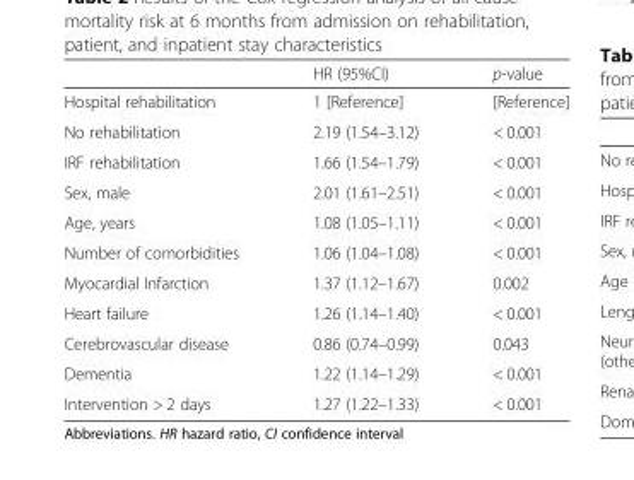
<table><thead><tr><td></td><td>HR (95%CI)</td><td>p-value</td></tr></thead><tbody><tr><td>Hospital rehabilitation</td><td>1 [Reference]</td><td>[Reference]</td></tr><tr><td>No rehabilitation</td><td>2.19 (1.54–3.12)</td><td>&lt; 0.001</td></tr><tr><td>IRF rehabilitation</td><td>1.66 (1.54–1.79)</td><td>&lt; 0.001</td></tr><tr><td>Sex, male</td><td>2.01 (1.61–2.51)</td><td>&lt; 0.001</td></tr><tr><td>Age, years</td><td>1.08 (1.05–1.11)</td><td>&lt; 0.001</td></tr><tr><td>Number of comorbidities</td><td>1.06 (1.04–1.08)</td><td>&lt; 0.001</td></tr><tr><td>Myocardial Infarction</td><td>1.37 (1.12–1.67)</td><td>0.002</td></tr><tr><td>Heart failure</td><td>1.26 (1.14–1.40)</td><td>&lt; 0.001</td></tr><tr><td>Cerebrovascular disease</td><td>0.86 (0.74–0.99)</td><td>0.043</td></tr><tr><td>Dementia</td><td>1.22 (1.14–1.29)</td><td>&lt; 0.001</td></tr><tr><td>Intervention &gt; 2 days</td><td>1.27 (1.22–1.33)</td><td>&lt; 0.001</td></tr></tbody></table>